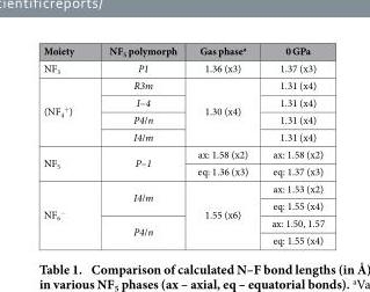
<table><thead><tr><td>Moiety</td><td>NF<sub>5</sub> polymorph</td><td>Gas phase<sup>a</sup></td><td>0 GPa</td></tr></thead><tbody><tr><td>NF<sub>3</sub></td><td>P1</td><td>1.36 (x3)</td><td>1.37 (x3)</td></tr><tr><td rowspan="4">(NF<sub>4</sub> <sup>+</sup>)</td><td>R3m</td><td rowspan="4">1.30 (x4)</td><td>1.31 (x4)</td></tr><tr><td>I–4</td><td>1.31 (x4)</td></tr><tr><td>P4/n</td><td>1.31 (x4)</td></tr><tr><td>I4/m</td><td>1.31 (x4)</td></tr><tr><td rowspan="2">NF<sub>5</sub></td><td rowspan="2">P–1</td><td>ax: 1.58 (x2)</td><td>ax: 1.58 (x2)</td></tr><tr><td>eq: 1.36 (x3)</td><td>eq: 1.37 (x3)</td></tr><tr><td rowspan="4">NF<sub>6</sub> <sup>−</sup></td><td rowspan="2">I4/m</td><td rowspan="4">1.55 (x6)</td><td>ax: 1.53 (x2)</td></tr><tr><td>eq: 1.55 (x4)</td></tr><tr><td rowspan="2">P4/n</td><td>ax: 1.50, 1.57</td></tr><tr><td>eq: 1.55 (x4)</td></tr></tbody></table>